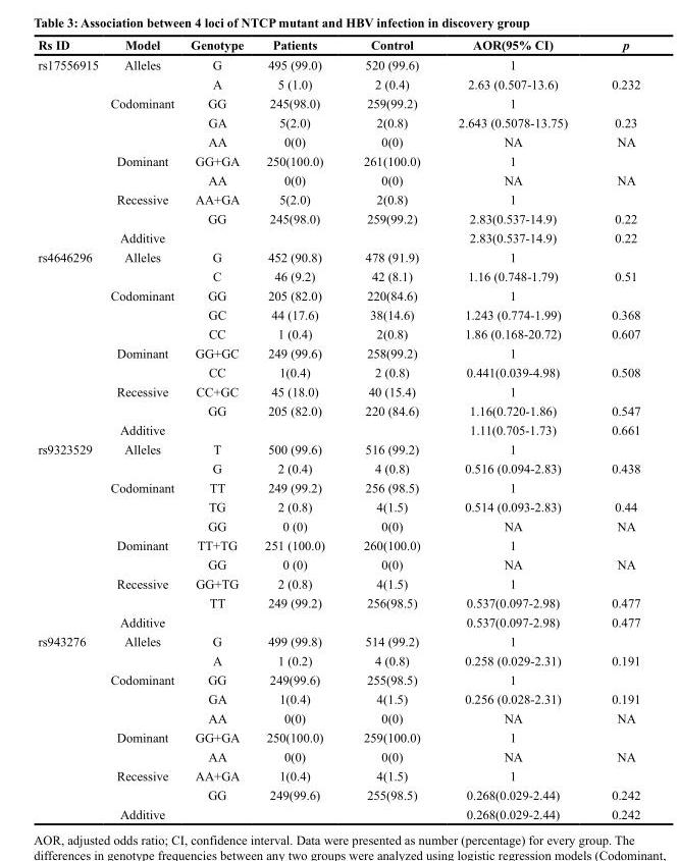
<table><thead><tr><td>Rs ID</td><td>Model</td><td>Genotype</td><td>Patients</td><td>Control</td><td>AOR(95% CI)</td><td>p</td></tr></thead><tbody><tr><td rowspan="10">rs17556915</td><td>Alleles</td><td>G</td><td>495 (99.0)</td><td>520 (99.6)</td><td>1</td><td></td></tr><tr><td></td><td>A</td><td>5 (1.0)</td><td>2 (0.4)</td><td>2.63 (0.507-13.6)</td><td>0.232</td></tr><tr><td>Codominant</td><td>GG</td><td>245(98.0)</td><td>259(99.2)</td><td>1</td><td></td></tr><tr><td></td><td>GA</td><td>5(2.0)</td><td>2(0.8)</td><td>2.643 (0.5078-13.75)</td><td>0.23</td></tr><tr><td></td><td>AA</td><td>0(0)</td><td>0(0)</td><td>NA</td><td>NA</td></tr><tr><td>Dominant</td><td>GG+GA</td><td>250(100.0)</td><td>261(100.0)</td><td>1</td><td></td></tr><tr><td></td><td>AA</td><td>0(0)</td><td>0(0)</td><td>NA</td><td>NA</td></tr><tr><td>Recessive</td><td>AA+GA</td><td>5(2.0)</td><td>2(0.8)</td><td>1</td><td></td></tr><tr><td></td><td>GG</td><td>245(98.0)</td><td>259(99.2)</td><td>2.83(0.537-14.9)</td><td>0.22</td></tr><tr><td>Additive</td><td></td><td></td><td></td><td>2.83(0.537-14.9)</td><td>0.22</td></tr><tr><td rowspan="10">rs4646296</td><td>Alleles</td><td>G</td><td>452 (90.8)</td><td>478 (91.9)</td><td>1</td><td></td></tr><tr><td></td><td>C</td><td>46 (9.2)</td><td>42 (8.1)</td><td>1.16 (0.748-1.79)</td><td>0.51</td></tr><tr><td>Codominant</td><td>GG</td><td>205 (82.0)</td><td>220(84.6)</td><td>1</td><td></td></tr><tr><td></td><td>GC</td><td>44 (17.6)</td><td>38(14.6)</td><td>1.243 (0.774-1.99)</td><td>0.368</td></tr><tr><td></td><td>CC</td><td>1 (0.4)</td><td>2(0.8)</td><td>1.86 (0.168-20.72)</td><td>0.607</td></tr><tr><td>Dominant</td><td>GG+GC</td><td>249 (99.6)</td><td>258(99.2)</td><td>1</td><td></td></tr><tr><td></td><td>CC</td><td>1(0.4)</td><td>2 (0.8)</td><td>0.441(0.039-4.98)</td><td>0.508</td></tr><tr><td>Recessive</td><td>CC+GC</td><td>45 (18.0)</td><td>40 (15.4)</td><td>1</td><td></td></tr><tr><td></td><td>GG</td><td>205 (82.0)</td><td>220 (84.6)</td><td>1.16(0.720-1.86)</td><td>0.547</td></tr><tr><td>Additive</td><td></td><td></td><td></td><td>1.11(0.705-1.73)</td><td>0.661</td></tr><tr><td rowspan="10">rs9323529</td><td>Alleles</td><td>T</td><td>500 (99.6)</td><td>516 (99.2)</td><td>1</td><td></td></tr><tr><td></td><td>G</td><td>2 (0.4)</td><td>4 (0.8)</td><td>0.516 (0.094-2.83)</td><td>0.438</td></tr><tr><td>Codominant</td><td>TT</td><td>249 (99.2)</td><td>256 (98.5)</td><td>1</td><td></td></tr><tr><td></td><td>TG</td><td>2 (0.8)</td><td>4(1.5)</td><td>0.514 (0.093-2.83)</td><td>0.44</td></tr><tr><td></td><td>GG</td><td>0 (0)</td><td>0(0)</td><td>NA</td><td>NA</td></tr><tr><td>Dominant</td><td>TT+TG</td><td>251 (100.0)</td><td>260(100.0)</td><td>1</td><td></td></tr><tr><td></td><td>GG</td><td>0 (0)</td><td>0(0)</td><td>NA</td><td>NA</td></tr><tr><td>Recessive</td><td>GG+TG</td><td>2 (0.8)</td><td>4(1.5)</td><td>1</td><td></td></tr><tr><td></td><td>TT</td><td>249 (99.2)</td><td>256(98.5)</td><td>0.537(0.097-2.98)</td><td>0.477</td></tr><tr><td>Additive</td><td></td><td></td><td></td><td>0.537(0.097-2.98)</td><td>0.477</td></tr><tr><td rowspan="10">rs943276</td><td>Alleles</td><td>G</td><td>499 (99.8)</td><td>514 (99.2)</td><td>1</td><td></td></tr><tr><td></td><td>A</td><td>1 (0.2)</td><td>4 (0.8)</td><td>0.258 (0.029-2.31)</td><td>0.191</td></tr><tr><td>Codominant</td><td>GG</td><td>249(99.6)</td><td>255(98.5)</td><td>1</td><td></td></tr><tr><td></td><td>GA</td><td>1(0.4)</td><td>4(1.5)</td><td>0.256 (0.028-2.31)</td><td>0.191</td></tr><tr><td></td><td>AA</td><td>0(0)</td><td>0(0)</td><td>NA</td><td>NA</td></tr><tr><td>Dominant</td><td>GG+GA</td><td>250(100.0)</td><td>259(100.0)</td><td>1</td><td></td></tr><tr><td></td><td>AA</td><td>0(0)</td><td>0(0)</td><td>NA</td><td>NA</td></tr><tr><td>Recessive</td><td>AA+GA</td><td>1(0.4)</td><td>4(1.5)</td><td>1</td><td></td></tr><tr><td></td><td>GG</td><td>249(99.6)</td><td>255(98.5)</td><td>0.268(0.029-2.44)</td><td>0.242</td></tr><tr><td>Additive</td><td></td><td></td><td></td><td>0.268(0.029-2.44)</td><td>0.242</td></tr></tbody></table>